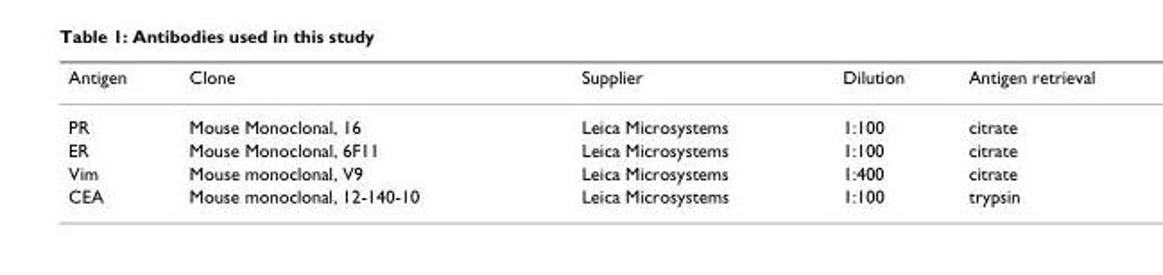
<table><thead><tr><td>Antigen</td><td>Clone</td><td>Supplier</td><td>Dilution</td><td>Antigen retrieval</td></tr></thead><tbody><tr><td>PR</td><td>Mouse Monoclonal, 16</td><td>Leica Microsystems</td><td>1:100</td><td>citrate</td></tr><tr><td>ER</td><td>Mouse Monoclonal, 6F11</td><td>Leica Microsystems</td><td>1:100</td><td>citrate</td></tr><tr><td>Vim</td><td>Mouse monoclonal, V9</td><td>Leica Microsystems</td><td>1:400</td><td>citrate</td></tr><tr><td>CEA</td><td>Mouse monoclonal, 12-140-10</td><td>Leica Microsystems</td><td>1:100</td><td>trypsin</td></tr></tbody></table>